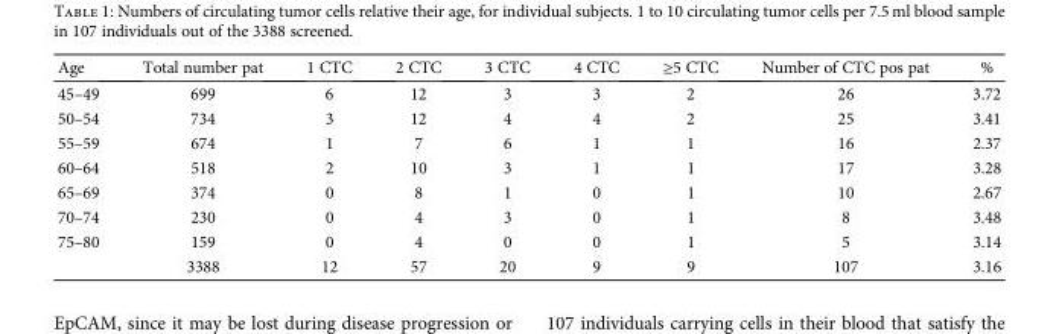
<table><thead><tr><td>Age</td><td>Total number pat</td><td>1 CTC</td><td>2 CTC</td><td>3 CTC</td><td>4 CTC</td><td>≥5 CTC</td><td>Number of CTC pos pat</td><td>%</td></tr></thead><tbody><tr><td>45–49</td><td>699</td><td>6</td><td>12</td><td>3</td><td>3</td><td>2</td><td>26</td><td>3.72</td></tr><tr><td>50–54</td><td>734</td><td>3</td><td>12</td><td>4</td><td>4</td><td>2</td><td>25</td><td>3.41</td></tr><tr><td>55–59</td><td>674</td><td>1</td><td>7</td><td>6</td><td>1</td><td>1</td><td>16</td><td>2.37</td></tr><tr><td>60–64</td><td>518</td><td>2</td><td>10</td><td>3</td><td>1</td><td>1</td><td>17</td><td>3.28</td></tr><tr><td>65–69</td><td>374</td><td>0</td><td>8</td><td>1</td><td>0</td><td>1</td><td>10</td><td>2.67</td></tr><tr><td>70–74</td><td>230</td><td>0</td><td>4</td><td>3</td><td>0</td><td>1</td><td>8</td><td>3.48</td></tr><tr><td rowspan="2">75–80</td><td>159</td><td>0</td><td>4</td><td>0</td><td>0</td><td>1</td><td>5</td><td>3.14</td></tr><tr><td>3388</td><td>12</td><td>57</td><td>20</td><td>9</td><td>9</td><td>107</td><td>3.16</td></tr></tbody></table>